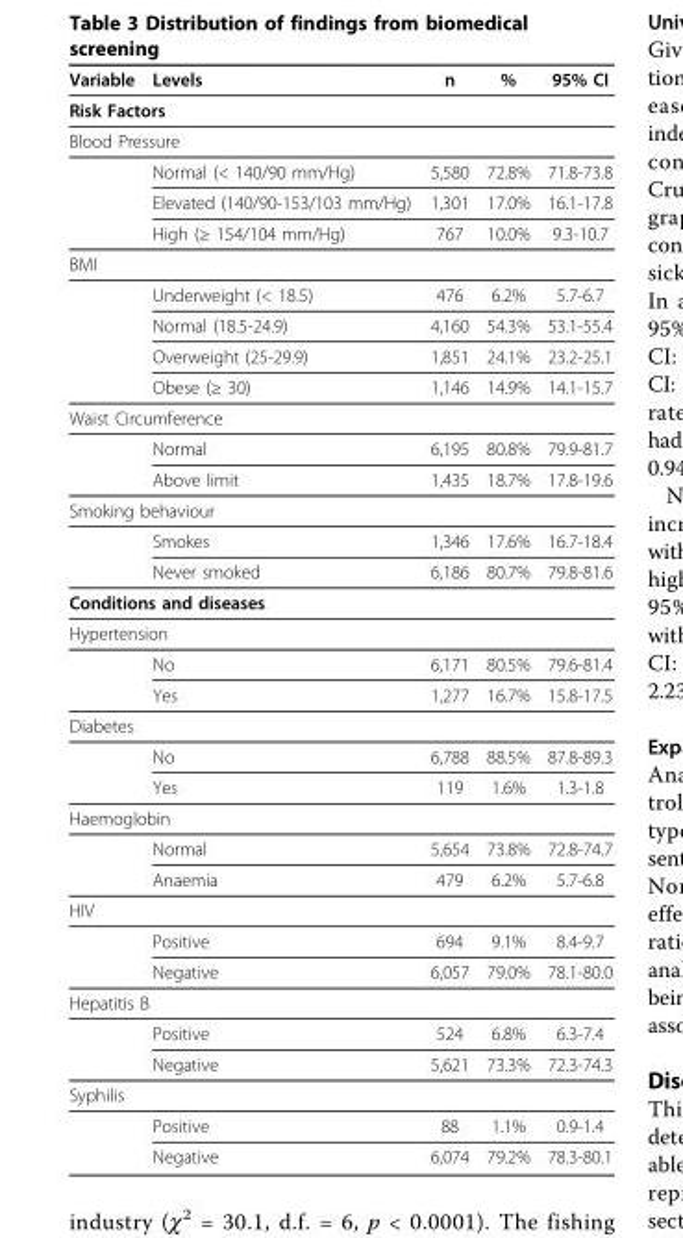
<table><thead><tr><td>Variable</td><td>Levels</td><td>n</td><td>%</td><td>95% CI</td></tr></thead><tbody><tr><td colspan="5">Risk Factors</td></tr><tr><td colspan="5">Blood Pressure</td></tr><tr><td></td><td>Normal (&lt; 140/90 mm/Hg)</td><td>5,580</td><td>72.8%</td><td>71.8-73.8</td></tr><tr><td></td><td>Elevated (140/90-153/103 mm/Hg)</td><td>1,301</td><td>17.0%</td><td>16.1-17.8</td></tr><tr><td></td><td>High (≥ 154/104 mm/Hg)</td><td>767</td><td>10.0%</td><td>9.3-10.7</td></tr><tr><td colspan="5">BMI</td></tr><tr><td></td><td>Underweight (&lt; 18.5)</td><td>476</td><td>6.2%</td><td>5.7-6.7</td></tr><tr><td></td><td>Normal (18.5-24.9)</td><td>4,160</td><td>54.3%</td><td>53.1-55.4</td></tr><tr><td></td><td>Overweight (25-29.9)</td><td>1,851</td><td>24.1%</td><td>23.2-25.1</td></tr><tr><td></td><td>Obese (≥ 30)</td><td>1,146</td><td>14.9%</td><td>14.1-15.7</td></tr><tr><td colspan="5">Waist Circumference</td></tr><tr><td></td><td>Normal</td><td>6,195</td><td>80.8%</td><td>79.9-81.7</td></tr><tr><td></td><td>Above limit</td><td>1,435</td><td>18.7%</td><td>17.8-19.6</td></tr><tr><td colspan="5">Smoking behaviour</td></tr><tr><td></td><td>Smokes</td><td>1,346</td><td>17.6%</td><td>16.7-18.4</td></tr><tr><td></td><td>Never smoked</td><td>6,186</td><td>80.7%</td><td>79.8-81.6</td></tr><tr><td colspan="5">Conditions and diseases</td></tr><tr><td colspan="5">Hypertension</td></tr><tr><td></td><td>No</td><td>6,171</td><td>80.5%</td><td>79.6-81.4</td></tr><tr><td></td><td>Yes</td><td>1,277</td><td>16.7%</td><td>15.8-17.5</td></tr><tr><td colspan="5">Diabetes</td></tr><tr><td></td><td>No</td><td>6,788</td><td>88.5%</td><td>87.8-89.3</td></tr><tr><td></td><td>Yes</td><td>119</td><td>1.6%</td><td>1.3-1.8</td></tr><tr><td colspan="5">Haemoglobin</td></tr><tr><td></td><td>Normal</td><td>5,654</td><td>73.8%</td><td>72.8-74.7</td></tr><tr><td></td><td>Anaemia</td><td>479</td><td>6.2%</td><td>5.7-6.8</td></tr><tr><td colspan="5">HIV</td></tr><tr><td></td><td>Positive</td><td>694</td><td>9.1%</td><td>8.4-9.7</td></tr><tr><td></td><td>Negative</td><td>6,057</td><td>79.0%</td><td>78.1-80.0</td></tr><tr><td colspan="5">Hepatitis B</td></tr><tr><td></td><td>Positive</td><td>524</td><td>6.8%</td><td>6.3-7.4</td></tr><tr><td></td><td>Negative</td><td>5,621</td><td>73.3%</td><td>72.3-74.3</td></tr><tr><td colspan="5">Syphilis</td></tr><tr><td></td><td>Positive</td><td>88</td><td>1.1%</td><td>0.9-1.4</td></tr><tr><td></td><td>Negative</td><td>6,074</td><td>79.2%</td><td>78.3-80.1</td></tr></tbody></table>